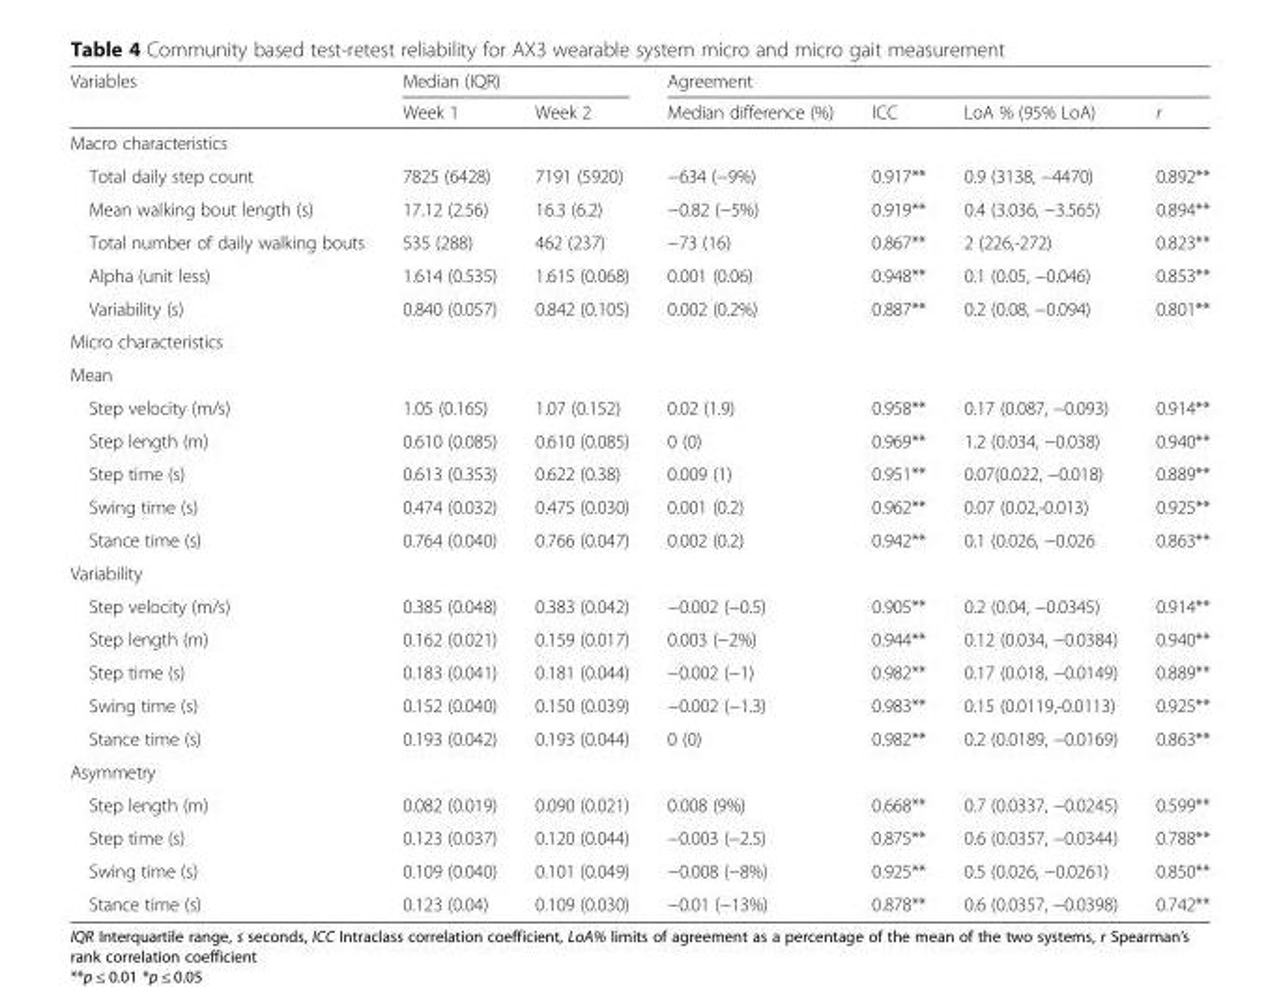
<table><thead><tr><td rowspan="2">Variables</td><td colspan="2">Median (IQR)</td><td colspan="4">Agreement</td></tr><tr><td>Week 1</td><td>Week 2</td><td>Median difference (%)</td><td>ICC</td><td>LoA % (95% LoA)</td><td>r</td></tr></thead><tbody><tr><td colspan="7">Macro characteristics</td></tr><tr><td>Total daily step count</td><td>7825 (6428)</td><td>7191 (5920)</td><td>−634 (−9%)</td><td>0.917**</td><td>0.9 (3138, −4470)</td><td>0.892**</td></tr><tr><td>Mean walking bout length (s)</td><td>17.12 (2.56)</td><td>16.3 (6.2)</td><td>−0.82 (−5%)</td><td>0.919**</td><td>0.4 (3.036, −3.565)</td><td>0.894**</td></tr><tr><td>Total number of daily walking bouts</td><td>535 (288)</td><td>462 (237)</td><td>−73 (16)</td><td>0.867**</td><td>2 (226,-272)</td><td>0.823**</td></tr><tr><td>Alpha (unit less)</td><td>1.614 (0.535)</td><td>1.615 (0.068)</td><td>0.001 (0.06)</td><td>0.948**</td><td>0.1 (0.05, −0.046)</td><td>0.853**</td></tr><tr><td>Variability (s)</td><td>0.840 (0.057)</td><td>0.842 (0.105)</td><td>0.002 (0.2%)</td><td>0.887**</td><td>0.2 (0.08, −0.094)</td><td>0.801**</td></tr><tr><td colspan="7">Micro characteristics</td></tr><tr><td colspan="7">Mean</td></tr><tr><td>Step velocity (m/s)</td><td>1.05 (0.165)</td><td>1.07 (0.152)</td><td>0.02 (1.9)</td><td>0.958**</td><td>0.17 (0.087, −0.093)</td><td>0.914**</td></tr><tr><td>Step length (m)</td><td>0.610 (0.085)</td><td>0.610 (0.085)</td><td>0 (0)</td><td>0.969**</td><td>1.2 (0.034, −0.038)</td><td>0.940**</td></tr><tr><td>Step time (s)</td><td>0.613 (0.353)</td><td>0.622 (0.38)</td><td>0.009 (1)</td><td>0.951**</td><td>0.07(0.022, −0.018)</td><td>0.889**</td></tr><tr><td>Swing time (s)</td><td>0.474 (0.032)</td><td>0.475 (0.030)</td><td>0.001 (0.2)</td><td>0.962**</td><td>0.07 (0.02,-0.013)</td><td>0.925**</td></tr><tr><td>Stance time (s)</td><td>0.764 (0.040)</td><td>0.766 (0.047)</td><td>0.002 (0.2)</td><td>0.942**</td><td>0.1 (0.026, −0.026</td><td>0.863**</td></tr><tr><td colspan="7">Variability</td></tr><tr><td>Step velocity (m/s)</td><td>0.385 (0.048)</td><td>0.383 (0.042)</td><td>−0.002 (−0.5)</td><td>0.905**</td><td>0.2 (0.04, −0.0345)</td><td>0.914**</td></tr><tr><td>Step length (m)</td><td>0.162 (0.021)</td><td>0.159 (0.017)</td><td>0.003 (−2%)</td><td>0.944**</td><td>0.12 (0.034, −0.0384)</td><td>0.940**</td></tr><tr><td>Step time (s)</td><td>0.183 (0.041)</td><td>0.181 (0.044)</td><td>−0.002 (−1)</td><td>0.982**</td><td>0.17 (0.018, −0.0149)</td><td>0.889**</td></tr><tr><td>Swing time (s)</td><td>0.152 (0.040)</td><td>0.150 (0.039)</td><td>−0.002 (−1.3)</td><td>0.983**</td><td>0.15 (0.0119,-0.0113)</td><td>0.925**</td></tr><tr><td>Stance time (s)</td><td>0.193 (0.042)</td><td>0.193 (0.044)</td><td>0 (0)</td><td>0.982**</td><td>0.2 (0.0189, −0.0169)</td><td>0.863**</td></tr><tr><td colspan="7">Asymmetry</td></tr><tr><td>Step length (m)</td><td>0.082 (0.019)</td><td>0.090 (0.021)</td><td>0.008 (9%)</td><td>0.668**</td><td>0.7 (0.0337, −0.0245)</td><td>0.599**</td></tr><tr><td>Step time (s)</td><td>0.123 (0.037)</td><td>0.120 (0.044)</td><td>−0.003 (−2.5)</td><td>0.875**</td><td>0.6 (0.0357, −0.0344)</td><td>0.788**</td></tr><tr><td>Swing time (s)</td><td>0.109 (0.040)</td><td>0.101 (0.049)</td><td>−0.008 (−8%)</td><td>0.925**</td><td>0.5 (0.026, −0.0261)</td><td>0.850**</td></tr><tr><td>Stance time (s)</td><td>0.123 (0.04)</td><td>0.109 (0.030)</td><td>−0.01 (−13%)</td><td>0.878**</td><td>0.6 (0.0357, −0.0398)</td><td>0.742**</td></tr></tbody></table>